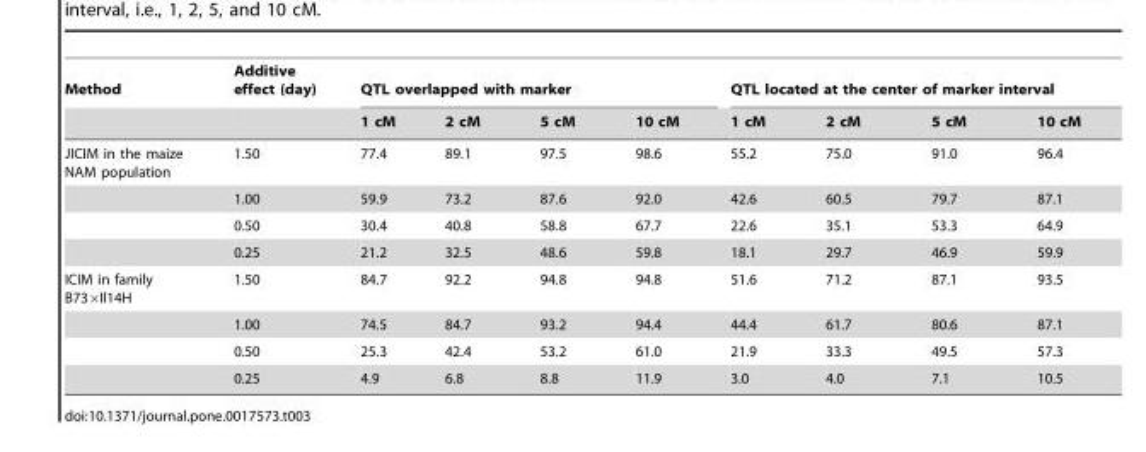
<table><thead><tr><td rowspan="2">Method</td><td rowspan="2">Additive effect (day)</td><td colspan="4">QTL overlapped with marker</td><td colspan="4">QTL located at the center of marker interval</td></tr><tr><td>1 cM</td><td>2 cM</td><td>5 cM</td><td>10 cM</td><td>1 cM</td><td>2 cM</td><td>5 cM</td><td>10 cM</td></tr></thead><tbody><tr><td rowspan="4">JICIM in the maize NAM population</td><td>1.50</td><td>77.4</td><td>89.1</td><td>97.5</td><td>98.6</td><td>55.2</td><td>75.0</td><td>91.0</td><td>96.4</td></tr><tr><td>1.00</td><td>59.9</td><td>73.2</td><td>87.6</td><td>92.0</td><td>42.6</td><td>60.5</td><td>79.7</td><td>87.1</td></tr><tr><td>0.50</td><td>30.4</td><td>40.8</td><td>58.8</td><td>67.7</td><td>22.6</td><td>35.1</td><td>53.3</td><td>64.9</td></tr><tr><td>0.25</td><td>21.2</td><td>32.5</td><td>48.6</td><td>59.8</td><td>18.1</td><td>29.7</td><td>46.9</td><td>59.9</td></tr><tr><td rowspan="4">ICIM in family B73×Il14H</td><td>1.50</td><td>84.7</td><td>92.2</td><td>94.8</td><td>94.8</td><td>51.6</td><td>71.2</td><td>87.1</td><td>93.5</td></tr><tr><td>1.00</td><td>74.5</td><td>84.7</td><td>93.2</td><td>94.4</td><td>44.4</td><td>61.7</td><td>80.6</td><td>87.1</td></tr><tr><td>0.50</td><td>25.3</td><td>42.4</td><td>53.2</td><td>61.0</td><td>21.9</td><td>33.3</td><td>49.5</td><td>57.3</td></tr><tr><td>0.25</td><td>4.9</td><td>6.8</td><td>8.8</td><td>11.9</td><td>3.0</td><td>4.0</td><td>7.1</td><td>10.5</td></tr></tbody></table>